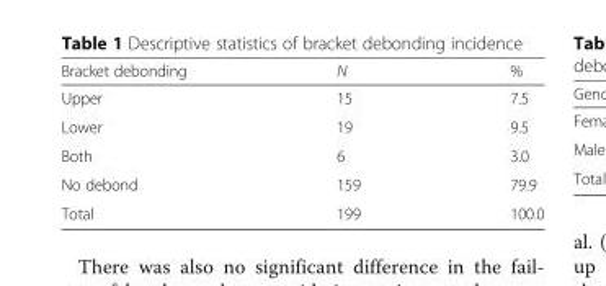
<table><thead><tr><td>Bracket debonding</td><td>N</td><td>%</td></tr></thead><tbody><tr><td>Upper</td><td>15</td><td>7.5</td></tr><tr><td>Lower</td><td>19</td><td>9.5</td></tr><tr><td>Both</td><td>6</td><td>3.0</td></tr><tr><td>No debond</td><td>159</td><td>79.9</td></tr><tr><td>Total</td><td>199</td><td>100.0</td></tr></tbody></table>